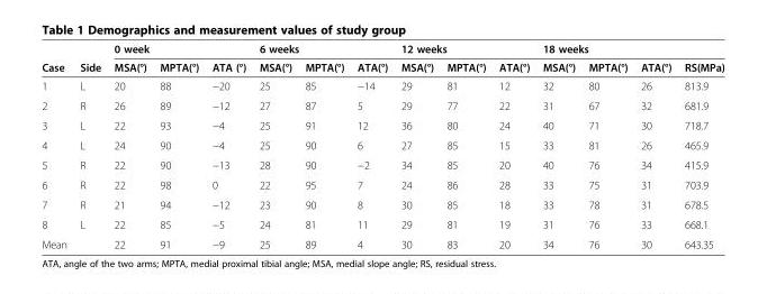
<table><thead><tr><td rowspan="2">Case</td><td rowspan="2">Side</td><td colspan="3">0 week</td><td colspan="3">6 weeks</td><td colspan="3">12 weeks</td><td colspan="4">18 weeks</td></tr><tr><td>MSA(°)</td><td>MPTA(°)</td><td>ATA (°)</td><td>MSA(°)</td><td>MPTA(°)</td><td>ATA(°)</td><td>MSA(°)</td><td>MPTA(°)</td><td>ATA(°)</td><td>MSA(°)</td><td>MPTA(°)</td><td>ATA(°)</td><td>RS(MPa)</td></tr></thead><tbody><tr><td>1</td><td>L</td><td>20</td><td>88</td><td>−20</td><td>25</td><td>85</td><td>−14</td><td>29</td><td>81</td><td>12</td><td>32</td><td>80</td><td>26</td><td>813.9</td></tr><tr><td>2</td><td>R</td><td>26</td><td>89</td><td>−12</td><td>27</td><td>87</td><td>5</td><td>29</td><td>77</td><td>22</td><td>31</td><td>67</td><td>32</td><td>681.9</td></tr><tr><td>3</td><td>L</td><td>22</td><td>93</td><td>−4</td><td>25</td><td>91</td><td>12</td><td>36</td><td>80</td><td>24</td><td>40</td><td>71</td><td>30</td><td>718.7</td></tr><tr><td>4</td><td>L</td><td>24</td><td>90</td><td>−4</td><td>25</td><td>90</td><td>6</td><td>27</td><td>85</td><td>15</td><td>33</td><td>81</td><td>26</td><td>465.9</td></tr><tr><td>5</td><td>R</td><td>22</td><td>90</td><td>−13</td><td>28</td><td>90</td><td>−2</td><td>34</td><td>85</td><td>20</td><td>40</td><td>76</td><td>34</td><td>415.9</td></tr><tr><td>6</td><td>R</td><td>22</td><td>98</td><td>0</td><td>22</td><td>95</td><td>7</td><td>24</td><td>86</td><td>28</td><td>33</td><td>75</td><td>31</td><td>703.9</td></tr><tr><td>7</td><td>R</td><td>21</td><td>94</td><td>−12</td><td>23</td><td>90</td><td>8</td><td>30</td><td>85</td><td>18</td><td>33</td><td>78</td><td>31</td><td>678.5</td></tr><tr><td>8</td><td>L</td><td>22</td><td>85</td><td>−5</td><td>24</td><td>81</td><td>11</td><td>29</td><td>81</td><td>19</td><td>31</td><td>76</td><td>33</td><td>668.1</td></tr><tr><td>Mean</td><td></td><td>22</td><td>91</td><td>−9</td><td>25</td><td>89</td><td>4</td><td>30</td><td>83</td><td>20</td><td>34</td><td>76</td><td>30</td><td>643.35</td></tr></tbody></table>